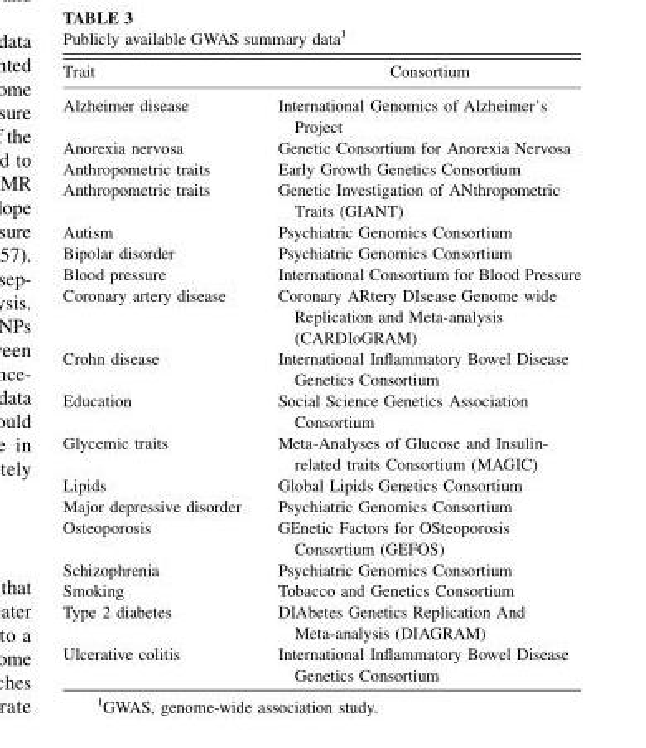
<table><thead><tr><td>Trait</td><td>Consortium</td></tr></thead><tbody><tr><td>Alzheimer disease</td><td>International Genomics of Alzheimer’s Project</td></tr><tr><td>Anorexia nervosa</td><td>Genetic Consortium for Anorexia Nervosa</td></tr><tr><td>Anthropometric traits</td><td>Early Growth Genetics Consortium</td></tr><tr><td>Anthropometric traits</td><td>Genetic Investigation of ANthropometric Traits (GIANT)</td></tr><tr><td>Autism</td><td>Psychiatric Genomics Consortium</td></tr><tr><td>Bipolar disorder</td><td>Psychiatric Genomics Consortium</td></tr><tr><td>Blood pressure</td><td>International Consortium for Blood Pressure</td></tr><tr><td>Coronary artery disease</td><td>Coronary ARtery DIsease Genome wide Replication and Meta-analysis (CARDIoGRAM)</td></tr><tr><td>Crohn disease</td><td>International Inflammatory Bowel Disease Genetics Consortium</td></tr><tr><td>Education</td><td>Social Science Genetics Association Consortium</td></tr><tr><td>Glycemic traits</td><td>Meta-Analyses of Glucose and Insulin- related traits Consortium (MAGIC)</td></tr><tr><td>Lipids</td><td>Global Lipids Genetics Consortium</td></tr><tr><td>Major depressive disorder</td><td>Psychiatric Genomics Consortium</td></tr><tr><td>Osteoporosis</td><td>GEnetic Factors for OSteoporosis Consortium (GEFOS)</td></tr><tr><td>Schizophrenia</td><td>Psychiatric Genomics Consortium</td></tr><tr><td>Smoking</td><td>Tobacco and Genetics Consortium</td></tr><tr><td>Type 2 diabetes</td><td>DIAbetes Genetics Replication And Meta-analysis (DIAGRAM)</td></tr><tr><td>Ulcerative colitis</td><td>International Inflammatory Bowel Disease Genetics Consortium</td></tr></tbody></table>